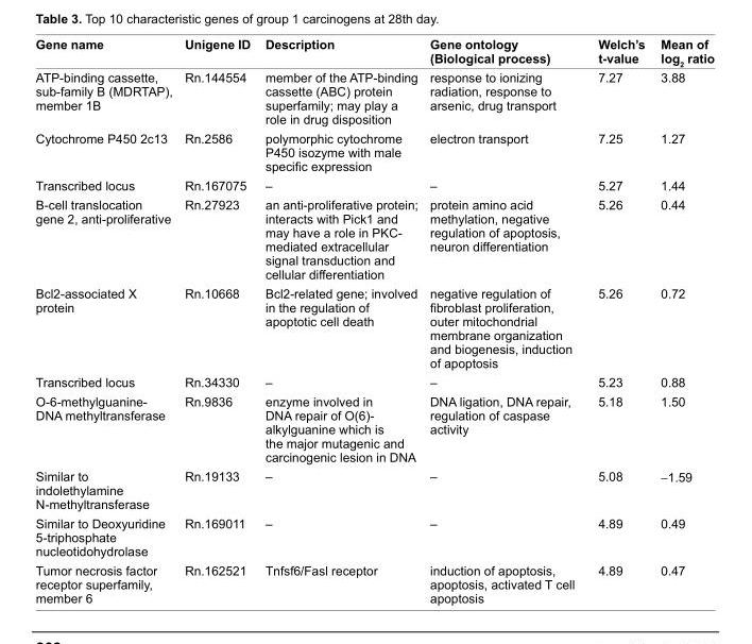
<table><thead><tr><td>Gene name</td><td>Unigene ID</td><td>Description</td><td>Gene ontology (Biological process)</td><td>Welch’s t-value</td><td>Mean of log<sub>2</sub> ratio</td></tr></thead><tbody><tr><td>ATP-binding cassette, sub-family B (MDrTAP), member 1B</td><td>rn.144554</td><td>member of the ATP-binding cassette (ABC) protein superfamily; may play a role in drug disposition</td><td>response to ionizing radiation, response to arsenic, drug transport</td><td>7.27</td><td>3.88</td></tr><tr><td>Cytochrome P450 2c13</td><td>rn.2586</td><td>polymorphic cytochrome P450 isozyme with male specific expression</td><td>electron transport</td><td>7.25</td><td>1.27</td></tr><tr><td>Transcribed locus</td><td>rn.167075</td><td>–</td><td>–</td><td>5.27</td><td>1.44</td></tr><tr><td>B-cell translocation gene 2, anti-proliferative</td><td>rn.27923</td><td>an anti-proliferative protein; interacts with Pick1 and may have a role in PKC- mediated extracellular signal transduction and cellular differentiation</td><td>protein amino acid methylation, negative regulation of apoptosis, neuron differentiation</td><td>5.26</td><td>0.44</td></tr><tr><td>Bcl2-associated X protein</td><td>rn.10668</td><td>Bcl2-related gene; involved in the regulation of apoptotic cell death</td><td>negative regulation of fibroblast proliferation, outer mitochondrial membrane organization and biogenesis, induction of apoptosis</td><td>5.26</td><td>0.72</td></tr><tr><td>Transcribed locus</td><td>rn.34330</td><td>–</td><td>–</td><td>5.23</td><td>0.88</td></tr><tr><td>O-6-methylguanine- DnA methyltransferase</td><td>rn.9836</td><td>enzyme involved in DnA repair of O(6)- alkylguanine which is the major mutagenic and carcinogenic lesion in DnA</td><td>DnA ligation, DnA repair, regulation of caspase activity</td><td>5.18</td><td>1.50</td></tr><tr><td>similar to indolethylamine n-methyltransferase</td><td>rn.19133</td><td>–</td><td>–</td><td>5.08</td><td>-1.59</td></tr><tr><td>similar to Deoxyuridine 5-triphosphate nucleotidohydrolase</td><td>rn.169011</td><td>–</td><td>–</td><td>4.89</td><td>0.49</td></tr><tr><td>Tumor necrosis factor receptor superfamily, member 6</td><td>rn.162521</td><td>Tnfsf6/Fasl receptor</td><td>induction of apoptosis, apoptosis, activated T cell apoptosis</td><td>4.89</td><td>0.47</td></tr></tbody></table>